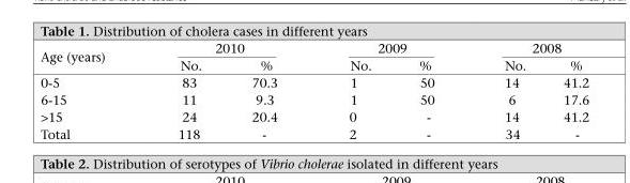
<table><thead><tr><td rowspan="2">Age (years)</td><td colspan="2">2010</td><td colspan="2">2009</td><td colspan="2">2008</td></tr><tr><td>No.</td><td>%</td><td>No.</td><td>%</td><td>No.</td><td>%</td></tr></thead><tbody><tr><td>0-5</td><td>83</td><td>70.3</td><td>1</td><td>50</td><td>14</td><td>41.2</td></tr><tr><td>6-15</td><td>11</td><td>9.3</td><td>1</td><td>50</td><td>6</td><td>17.6</td></tr><tr><td>&gt;15</td><td>24</td><td>20.4</td><td>0</td><td>-</td><td>14</td><td>41.2</td></tr><tr><td>Total</td><td>118</td><td>-</td><td>2</td><td>-</td><td>34</td><td>-</td></tr></tbody></table>